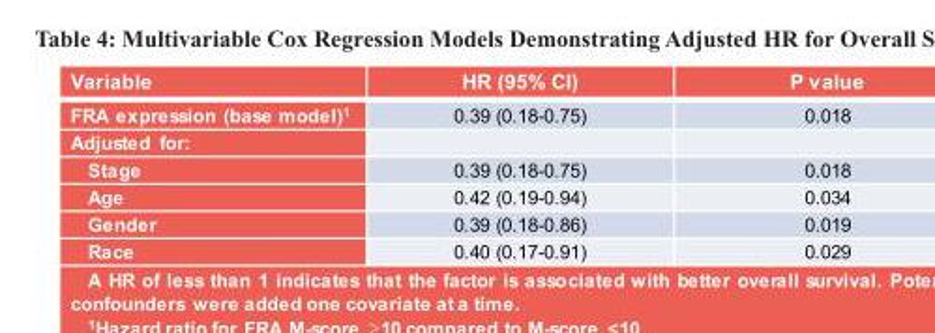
<table><thead><tr><td>Variable</td><td>HR (95% CI)</td><td>P value</td></tr></thead><tbody><tr><td>FRA expression (base model)<sup>1</sup></td><td>0.39 (0.18-0.75)</td><td>0.018</td></tr><tr><td colspan="3">Adjusted for:</td></tr><tr><td>Stage</td><td>0.39 (0.18-0.75)</td><td>0.018</td></tr><tr><td>Age</td><td>0.42 (0.19-0.94)</td><td>0.034</td></tr><tr><td>Gender</td><td>0.39 (0.18-0.86)</td><td>0.019</td></tr><tr><td>Race</td><td>0.40 (0.17-0.91)</td><td>0.029</td></tr></tbody></table>